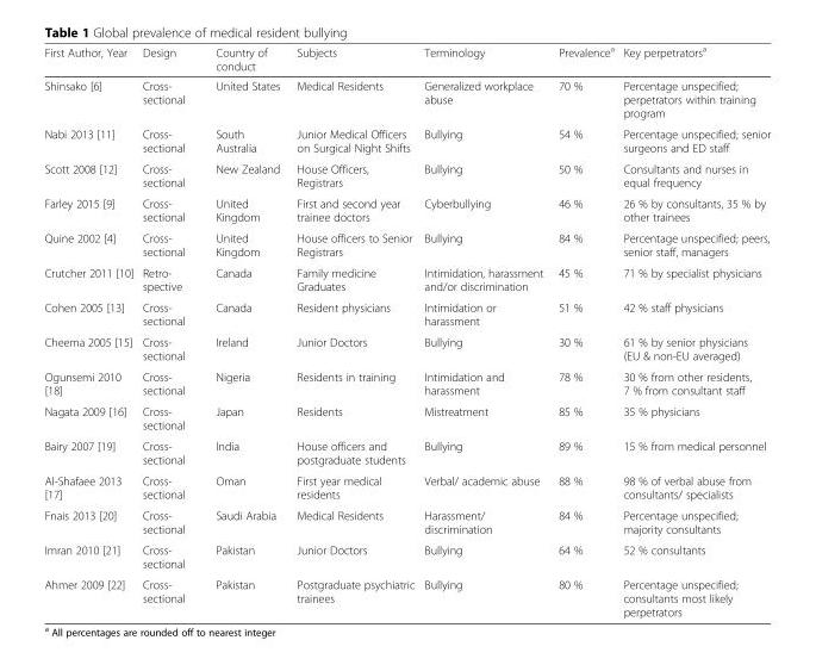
<table><thead><tr><td>First Author, Year</td><td>Design</td><td>Country of conduct</td><td>Subjects</td><td>Terminology</td><td>Prevalence<sup>a</sup></td><td>Key perpetrators<sup>a</sup></td></tr></thead><tbody><tr><td>Shinsako [6]</td><td>Cross- sectional</td><td>United States</td><td>Medical Residents</td><td>Generalized workplace abuse</td><td>70 %</td><td>Percentage unspecified; perpetrators within training program</td></tr><tr><td>Nabi 2013 [11]</td><td>Cross- sectional</td><td>South Australia</td><td>Junior Medical Officers on Surgical Night Shifts</td><td>Bullying</td><td>54 %</td><td>Percentage unspecified; senior surgeons and ED staff</td></tr><tr><td>Scott 2008 [12]</td><td>Cross- sectional</td><td>New Zealand</td><td>House Officers, Registrars</td><td>Bullying</td><td>50 %</td><td>Consultants and nurses in equal frequency</td></tr><tr><td>Farley 2015 [9]</td><td>Cross- sectional</td><td>United Kingdom</td><td>First and second year trainee doctors</td><td>Cyberbullying</td><td>46 %</td><td>26 % by consultants, 35 % by other trainees</td></tr><tr><td>Quine 2002 [4]</td><td>Cross- sectional</td><td>United Kingdom</td><td>House officers to Senior Registrars</td><td>Bullying</td><td>84 %</td><td>Percentage unspecified; peers, senior staff, managers</td></tr><tr><td>Crutcher 2011 [10]</td><td>Retro- spective</td><td>Canada</td><td>Family medicine Graduates</td><td>Intimidation, harassment and/or discrimination</td><td>45 %</td><td>71 % by specialist physicians</td></tr><tr><td>Cohen 2005 [13]</td><td>Cross- sectional</td><td>Canada</td><td>Resident physicians</td><td>Intimidation or harassment</td><td>51 %</td><td>42 % staff physicians</td></tr><tr><td>Cheema 2005 [15]</td><td>Cross- sectional</td><td>Ireland</td><td>Junior Doctors</td><td>Bullying</td><td>30 %</td><td>61 % by senior physicians (EU &amp; non-EU averaged)</td></tr><tr><td>Ogunsemi 2010 [18]</td><td>Cross- sectional</td><td>Nigeria</td><td>Residents in training</td><td>Intimidation and harassment</td><td>78 %</td><td>30 % from other residents, 7 % from consultant staff</td></tr><tr><td>Nagata 2009 [16]</td><td>Cross- sectional</td><td>Japan</td><td>Residents</td><td>Mistreatment</td><td>85 %</td><td>35 % physicians</td></tr><tr><td>Bairy 2007 [19]</td><td>Cross- sectional</td><td>India</td><td>House officers and postgraduate students</td><td>Bullying</td><td>89 %</td><td>15 % from medical personnel</td></tr><tr><td>Al-Shafaee 2013 [17]</td><td>Cross- sectional</td><td>Oman</td><td>First year medical residents</td><td>Verbal/ academic abuse</td><td>88 %</td><td>98 % of verbal abuse from consultants/ specialists</td></tr><tr><td>Fnais 2013 [20]</td><td>Cross- sectional</td><td>Saudi Arabia</td><td>Medical Residents</td><td>Harassment/ discrimination</td><td>84 %</td><td>Percentage unspecified; majority consultants</td></tr><tr><td>Imran 2010 [21]</td><td>Cross- sectional</td><td>Pakistan</td><td>Junior Doctors</td><td>Bullying</td><td>64 %</td><td>52 % consultants</td></tr><tr><td>Ahmer 2009 [22]</td><td>Cross- sectional</td><td>Pakistan</td><td>Postgraduate psychiatric trainees</td><td>Bullying</td><td>80 %</td><td>Percentage unspecified; consultants most likely perpetrators</td></tr></tbody></table>